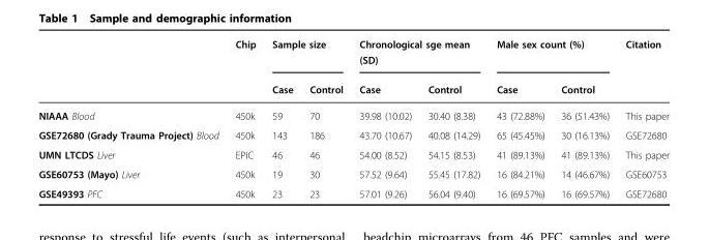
<table><thead><tr><td rowspan="2"></td><td rowspan="2">Chip</td><td colspan="2">Sample size</td><td colspan="2">Chronological sge mean (SD)</td><td colspan="2">Male sex count (%)</td><td rowspan="2">Citation</td></tr><tr><td>Case</td><td>Control</td><td>Case</td><td>Control</td><td>Case</td><td>Control</td></tr></thead><tbody><tr><td>NIAAA Blood</td><td>450k</td><td>59</td><td>70</td><td>39.98 (10.02)</td><td>30.40 (8.38)</td><td>43 (72.88%)</td><td>36 (51.43%)</td><td>This paper</td></tr><tr><td>GSE72680 (Grady Trauma Project) Blood</td><td>450k</td><td>143</td><td>186</td><td>43.70 (10.67)</td><td>40.08 (14.29)</td><td>65 (45.45%)</td><td>30 (16.13%)</td><td>GSE72680</td></tr><tr><td>UMN LTCDS Liver</td><td>EPIC</td><td>46</td><td>46</td><td>54.00 (8.52)</td><td>54.15 (8.53)</td><td>41 (89.13%)</td><td>41 (89.13%)</td><td>This paper</td></tr><tr><td>GSE60753 (Mayo) Liver</td><td>450k</td><td>19</td><td>30</td><td>57.52 (9.64)</td><td>55.45 (17.82)</td><td>16 (84.21%)</td><td>14 (46.67%)</td><td>GSE60753</td></tr><tr><td>GSE49393 PFC</td><td>450k</td><td>23</td><td>23</td><td>57.01 (9.26)</td><td>56.04 (9.40)</td><td>16 (69.57%)</td><td>16 (69.57%)</td><td>GSE72680</td></tr></tbody></table>